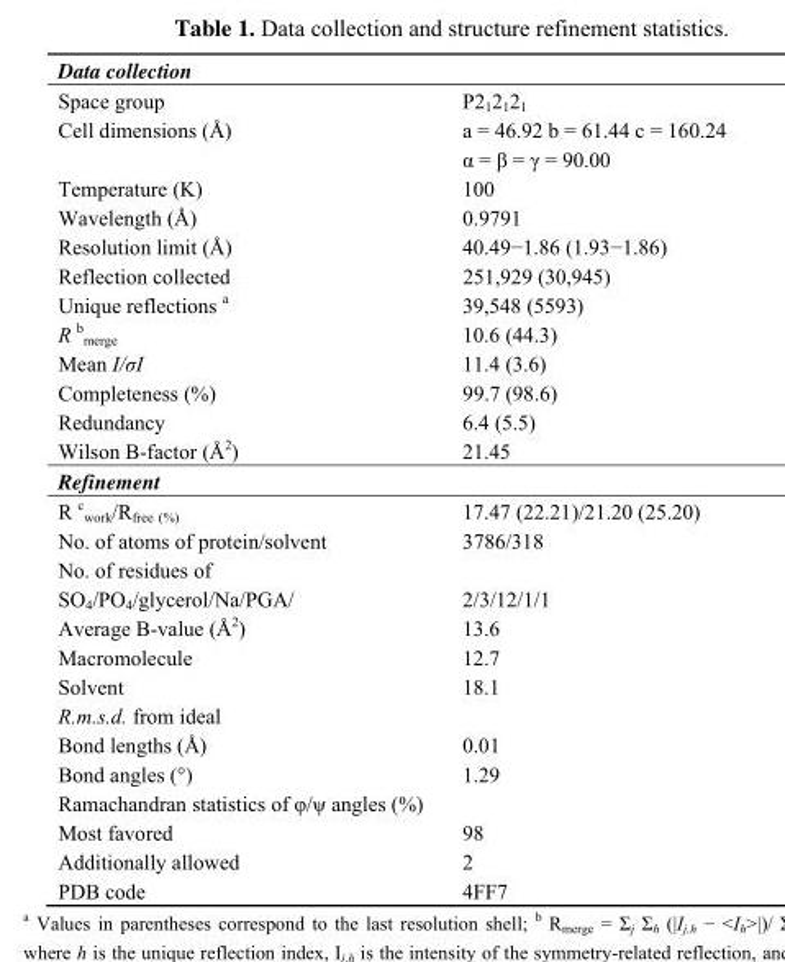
<table><tbody><tr><td colspan="2">Data collection</td></tr><tr><td>Space group</td><td>P2<sub>1</sub>2<sub>1</sub>2<sub>1</sub></td></tr><tr><td>Cell dimensions (Å)</td><td>a = 46.92 b = 61.44 c = 160.24 α = β = γ = 90.00</td></tr><tr><td>Temperature (K)</td><td>100</td></tr><tr><td>Wavelength (Å)</td><td>0.9791</td></tr><tr><td>Resolution limit (Å)</td><td>40.49−1.86 (1.93−1.86)</td></tr><tr><td>Reflection collected</td><td>251,929 (30,945)</td></tr><tr><td>Unique reflections a</td><td>39,548 (5593)</td></tr><tr><td>R b <sub>merge</sub></td><td>10.6 (44.3)</td></tr><tr><td>Mean I/σI</td><td>11.4 (3.6)</td></tr><tr><td>Completeness (%)</td><td>99.7 (98.6)</td></tr><tr><td>Redundancy</td><td>6.4 (5.5)</td></tr><tr><td>Wilson B-factor (Å<sup>2</sup>)</td><td>21.45</td></tr><tr><td colspan="2">Refinement</td></tr><tr><td>R c <sub>work</sub>/R<sub>free (%)</sub></td><td>17.47 (22.21)/21.20 (25.20)</td></tr><tr><td>No. of atoms of protein/solvent</td><td>3786/318</td></tr><tr><td colspan="2">No. of residues of</td></tr><tr><td>SO<sub>4</sub>/PO<sub>4</sub>/glycerol/Na/PGA/</td><td>2/3/12/1/1</td></tr><tr><td>Average B-value (Å<sup>2</sup>)</td><td>13.6</td></tr><tr><td>Macromolecule</td><td>12.7</td></tr><tr><td>Solvent</td><td>18.1</td></tr><tr><td colspan="2">R.m.s.d. from ideal</td></tr><tr><td>Bond lengths (Å)</td><td>0.01</td></tr><tr><td>Bond angles (°)</td><td>1.29</td></tr><tr><td colspan="2">Ramachandran statistics of φ/ψ angles (%)</td></tr><tr><td>Most favored</td><td>98</td></tr><tr><td>Additionally allowed</td><td>2</td></tr><tr><td>PDB code</td><td>4FF7</td></tr></tbody></table>